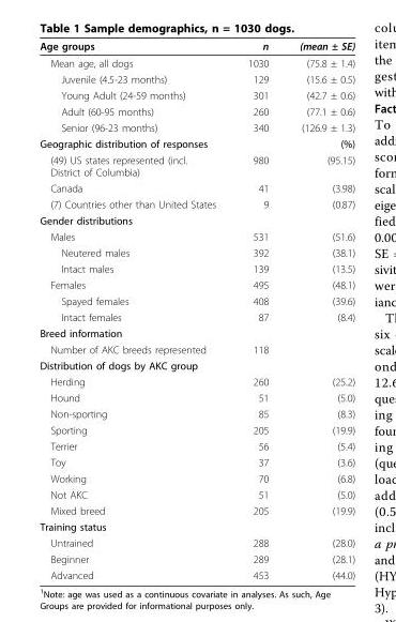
<table><thead><tr><td>Age groups</td><td>n</td><td>(mean ± SE)</td></tr></thead><tbody><tr><td>Mean age, all dogs</td><td>1030</td><td>(75.8 ± 1.4)</td></tr><tr><td>Juvenile (4.5-23 months)</td><td>129</td><td>(15.6 ± 0.5)</td></tr><tr><td>Young Adult (24-59 months)</td><td>301</td><td>(42.7 ± 0.6)</td></tr><tr><td>Adult (60-95 months)</td><td>260</td><td>(77.1 ± 0.6)</td></tr><tr><td>Senior (96-23 months)</td><td>340</td><td>(126.9 ± 1.3)</td></tr><tr><td>Geographic distribution of responses</td><td></td><td>(%)</td></tr><tr><td>(49) US states represented (incl. District of Columbia)</td><td>980</td><td>(95.15)</td></tr><tr><td>Canada</td><td>41</td><td>(3.98)</td></tr><tr><td>(7) Countries other than United States</td><td>9</td><td>(0.87)</td></tr><tr><td colspan="3">Gender distributions</td></tr><tr><td>Males</td><td>531</td><td>(51.6)</td></tr><tr><td>Neutered males</td><td>392</td><td>(38.1)</td></tr><tr><td>Intact males</td><td>139</td><td>(13.5)</td></tr><tr><td>Females</td><td>495</td><td>(48.1)</td></tr><tr><td>Spayed females</td><td>408</td><td>(39.6)</td></tr><tr><td>Intact females</td><td>87</td><td>(8.4)</td></tr><tr><td colspan="3">Breed information</td></tr><tr><td>Number of AKC breeds represented</td><td>118</td><td></td></tr><tr><td colspan="3">Distribution of dogs by AKC group</td></tr><tr><td>Herding</td><td>260</td><td>(25.2)</td></tr><tr><td>Hound</td><td>51</td><td>(5.0)</td></tr><tr><td>Non-sporting</td><td>85</td><td>(8.3)</td></tr><tr><td>Sporting</td><td>205</td><td>(19.9)</td></tr><tr><td>Terrier</td><td>56</td><td>(5.4)</td></tr><tr><td>Toy</td><td>37</td><td>(3.6)</td></tr><tr><td>Working</td><td>70</td><td>(6.8)</td></tr><tr><td>Not AKC</td><td>51</td><td>(5.0)</td></tr><tr><td>Mixed breed</td><td>205</td><td>(19.9)</td></tr><tr><td colspan="3">Training status</td></tr><tr><td>Untrained</td><td>288</td><td>(28.0)</td></tr><tr><td>Beginner</td><td>289</td><td>(28.1)</td></tr><tr><td>Advanced</td><td>453</td><td>(44.0)</td></tr></tbody></table>